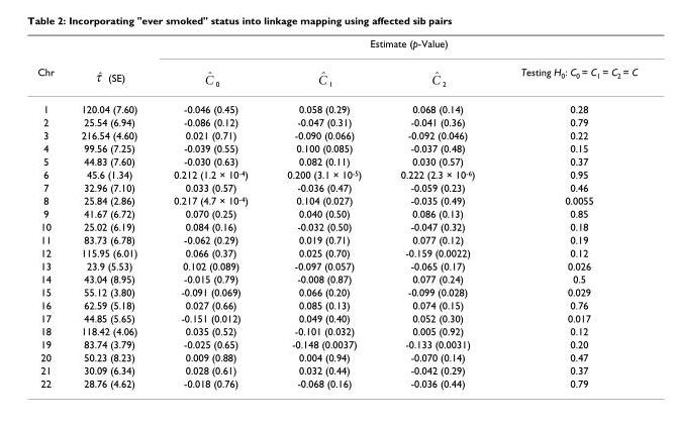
<table><thead><tr><td rowspan="2">Chr</td><td rowspan="2">(SE) ˆτ</td><td colspan="4">Estimate (p-Value)</td></tr><tr><td>0 ˆC</td><td>1 ˆC</td><td>2 ˆC</td><td>Testing H<sub>0</sub>: C<sub>0</sub> = C<sub>1</sub> = C<sub>2</sub> = C</td></tr></thead><tbody><tr><td>1</td><td>120.04 (7.60)</td><td>-0.046 (0.45)</td><td>0.058 (0.29)</td><td>0.068 (0.14)</td><td>0.28</td></tr><tr><td>2</td><td>25.54 (6.94)</td><td>-0.086 (0.12)</td><td>-0.047 (0.31)</td><td>-0.041 (0.36)</td><td>0.79</td></tr><tr><td>3</td><td>216.54 (4.60)</td><td>0.021 (0.71)</td><td>-0.090 (0.066)</td><td>-0.092 (0.046)</td><td>0.22</td></tr><tr><td>4</td><td>99.56 (7.25)</td><td>-0.039 (0.55)</td><td>0.100 (0.085)</td><td>-0.037 (0.48)</td><td>0.15</td></tr><tr><td>5</td><td>44.83 (7.60)</td><td>-0.030 (0.63)</td><td>0.082 (0.11)</td><td>0.030 (0.57)</td><td>0.37</td></tr><tr><td>6</td><td>45.6 (1.34)</td><td>0.212 (1.2 × 10<sup>-4</sup>)</td><td>0.200 (3.1 × 10<sup>-5</sup>)</td><td>0.222 (2.3 × 10<sup>-6</sup>)</td><td>0.95</td></tr><tr><td>7</td><td>32.96 (7.10)</td><td>0.033 (0.57)</td><td>-0.036 (0.47)</td><td>-0.059 (0.23)</td><td>0.46</td></tr><tr><td>8</td><td>25.84 (2.86)</td><td>0.217 (4.7 × 10<sup>-4</sup>)</td><td>0.104 (0.027)</td><td>-0.035 (0.49)</td><td>0.0055</td></tr><tr><td>9</td><td>41.67 (6.72)</td><td>0.070 (0.25)</td><td>0.040 (0.50)</td><td>0.086 (0.13)</td><td>0.85</td></tr><tr><td>10</td><td>25.02 (6.19)</td><td>0.084 (0.16)</td><td>-0.032 (0.50)</td><td>-0.047 (0.32)</td><td>0.18</td></tr><tr><td>11</td><td>83.73 (6.78)</td><td>-0.062 (0.29)</td><td>0.019 (0.71)</td><td>0.077 (0.12)</td><td>0.19</td></tr><tr><td>12</td><td>115.95 (6.01)</td><td>0.066 (0.37)</td><td>0.025 (0.70)</td><td>-0.159 (0.0022)</td><td>0.12</td></tr><tr><td>13</td><td>23.9 (5.53)</td><td>0.102 (0.089)</td><td>-0.097 (0.057)</td><td>-0.065 (0.17)</td><td>0.026</td></tr><tr><td>14</td><td>43.04 (8.95)</td><td>-0.015 (0.79)</td><td>-0.008 (0.87)</td><td>0.077 (0.24)</td><td>0.5</td></tr><tr><td>15</td><td>55.12 (3.80)</td><td>-0.091 (0.069)</td><td>0.066 (0.20)</td><td>-0.099 (0.028)</td><td>0.029</td></tr><tr><td>16</td><td>62.59 (5.18)</td><td>0.027 (0.66)</td><td>0.085 (0.13)</td><td>0.074 (0.15)</td><td>0.76</td></tr><tr><td>17</td><td>44.85 (5.65)</td><td>-0.151 (0.012)</td><td>0.049 (0.40)</td><td>0.052 (0.30)</td><td>0.017</td></tr><tr><td>18</td><td>118.42 (4.06)</td><td>0.035 (0.52)</td><td>-0.101 (0.032)</td><td>0.005 (0.92)</td><td>0.12</td></tr><tr><td>19</td><td>83.74 (3.79)</td><td>-0.025 (0.65)</td><td>-0.148 (0.0037)</td><td>-0.133 (0.0031)</td><td>0.20</td></tr><tr><td>20</td><td>50.23 (8.23)</td><td>0.009 (0.88)</td><td>0.004 (0.94)</td><td>-0.070 (0.14)</td><td>0.47</td></tr><tr><td>21</td><td>30.09 (6.34)</td><td>0.028 (0.61)</td><td>0.032 (0.44)</td><td>-0.042 (0.29)</td><td>0.37</td></tr><tr><td>22</td><td>28.76 (4.62)</td><td>-0.018 (0.76)</td><td>-0.068 (0.16)</td><td>-0.036 (0.44)</td><td>0.79</td></tr></tbody></table>